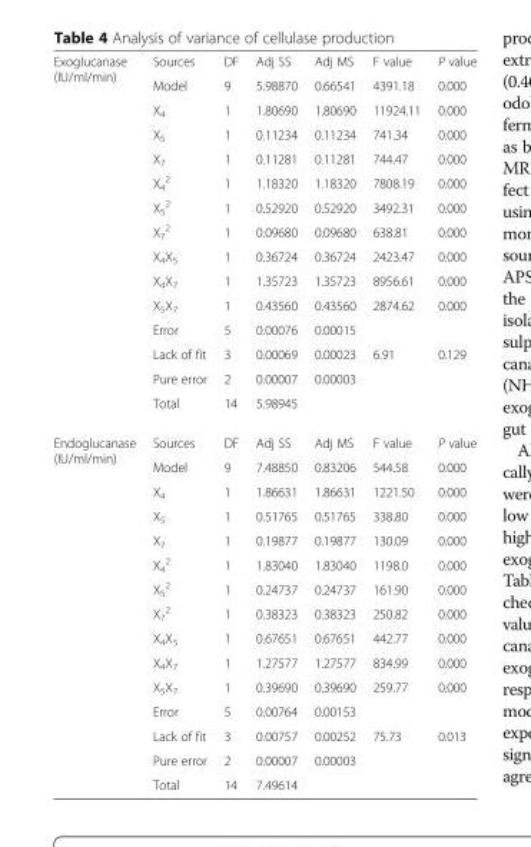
<table><tbody><tr><td rowspan="15">Exoglucanase (IU/ml/min)</td><td>Sources</td><td>DF</td><td>Adj SS</td><td>Adj MS</td><td>F value</td><td>P value</td></tr><tr><td>Model</td><td>9</td><td>5.98870</td><td>0.66541</td><td>4391.18</td><td>0.000</td></tr><tr><td>X<sub>4</sub></td><td>1</td><td>1.80690</td><td>1.80690</td><td>11924.11</td><td>0.000</td></tr><tr><td>X<sub>5</sub></td><td>1</td><td>0.11234</td><td>0.11234</td><td>741.34</td><td>0.000</td></tr><tr><td>X<sub>7</sub></td><td>1</td><td>0.11281</td><td>0.11281</td><td>744.47</td><td>0.000</td></tr><tr><td>X<sub>4</sub> <sup>2</sup></td><td>1</td><td>1.18320</td><td>1.18320</td><td>7808.19</td><td>0.000</td></tr><tr><td>X<sub>5</sub> <sup>2</sup></td><td>1</td><td>0.52920</td><td>0.52920</td><td>3492.31</td><td>0.000</td></tr><tr><td>X<sub>7</sub> <sup>2</sup></td><td>1</td><td>0.09680</td><td>0.09680</td><td>638.81</td><td>0.000</td></tr><tr><td>X<sub>4</sub>X<sub>5</sub></td><td>1</td><td>0.36724</td><td>0.36724</td><td>2423.47</td><td>0.000</td></tr><tr><td>X<sub>4</sub>X<sub>7</sub></td><td>1</td><td>1.35723</td><td>1.35723</td><td>8956.61</td><td>0.000</td></tr><tr><td>X<sub>5</sub>X<sub>7</sub></td><td>1</td><td>0.43560</td><td>0.43560</td><td>2874.62</td><td>0.000</td></tr><tr><td>Error</td><td>5</td><td>0.00076</td><td>0.00015</td><td></td><td></td></tr><tr><td>Lack of fit</td><td>3</td><td>0.00069</td><td>0.00023</td><td>6.91</td><td>0.129</td></tr><tr><td>Pure error</td><td>2</td><td>0.00007</td><td>0.00003</td><td></td><td></td></tr><tr><td>Total</td><td>14</td><td>5.98945</td><td></td><td></td><td></td></tr><tr><td rowspan="15">Endoglucanase (IU/ml/min)</td><td>Sources</td><td>DF</td><td>Adj SS</td><td>Adj MS</td><td>F value</td><td>P value</td></tr><tr><td>Model</td><td>9</td><td>7.48850</td><td>0.83206</td><td>544.58</td><td>0.000</td></tr><tr><td>X<sub>4</sub></td><td>1</td><td>1.86631</td><td>1.86631</td><td>1221.50</td><td>0.000</td></tr><tr><td>X<sub>5</sub></td><td>1</td><td>0.51765</td><td>0.51765</td><td>338.80</td><td>0.000</td></tr><tr><td>X<sub>7</sub></td><td>1</td><td>0.19877</td><td>0.19877</td><td>130.09</td><td>0.000</td></tr><tr><td>X<sub>4</sub> <sup>2</sup></td><td>1</td><td>1.83040</td><td>1.83040</td><td>1198.0</td><td>0.000</td></tr><tr><td>X<sub>5</sub> <sup>2</sup></td><td>1</td><td>0.24737</td><td>0.24737</td><td>161.90</td><td>0.000</td></tr><tr><td>X<sub>7</sub> <sup>2</sup></td><td>1</td><td>0.38323</td><td>0.38323</td><td>250.82</td><td>0.000</td></tr><tr><td>X<sub>4</sub>X<sub>5</sub></td><td>1</td><td>0.67651</td><td>0.67651</td><td>442.77</td><td>0.000</td></tr><tr><td>X<sub>4</sub>X<sub>7</sub></td><td>1</td><td>1.27577</td><td>1.27577</td><td>834.99</td><td>0.000</td></tr><tr><td>X<sub>5</sub>X<sub>7</sub></td><td>1</td><td>0.39690</td><td>0.39690</td><td>259.77</td><td>0.000</td></tr><tr><td>Error</td><td>5</td><td>0.00764</td><td>0.00153</td><td></td><td></td></tr><tr><td>Lack of fit</td><td>3</td><td>0.00757</td><td>0.00252</td><td>75.73</td><td>0.013</td></tr><tr><td>Pure error</td><td>2</td><td>0.00007</td><td>0.00003</td><td></td><td></td></tr><tr><td>Total</td><td>14</td><td>7.49614</td><td></td><td></td><td></td></tr></tbody></table>